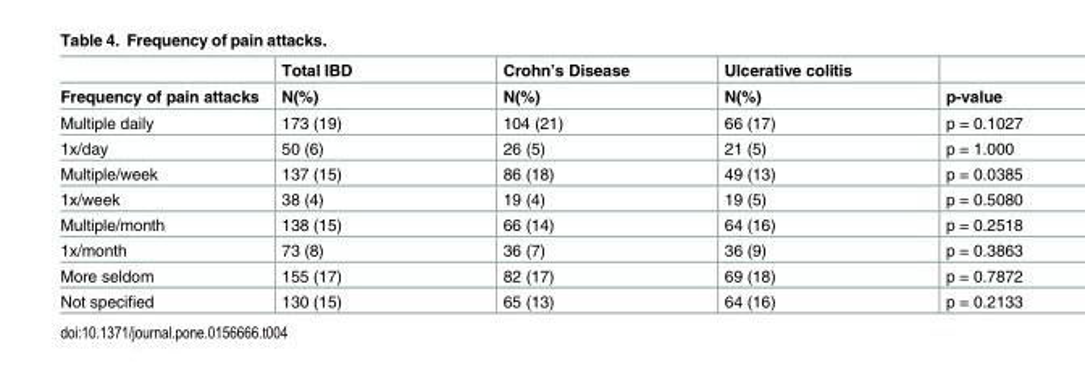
<table><thead><tr><td rowspan="2">Frequency of pain attacks</td><td rowspan="2">Total IBD N(%)</td><td rowspan="2">Crohn’s Disease N(%)</td><td rowspan="2">Ulcerative colitis N(%)</td><td rowspan="2">p-value</td></tr><tr></tr></thead><tbody><tr><td>Multiple daily</td><td>173 (19)</td><td>104 (21)</td><td>66 (17)</td><td>p = 0.1027</td></tr><tr><td>1x/day</td><td>50 (6)</td><td>26 (5)</td><td>21 (5)</td><td>p = 1.000</td></tr><tr><td>Multiple/week</td><td>137 (15)</td><td>86 (18)</td><td>49 (13)</td><td>p = 0.0385</td></tr><tr><td>1x/week</td><td>38 (4)</td><td>19 (4)</td><td>19 (5)</td><td>p = 0.5080</td></tr><tr><td>Multiple/month</td><td>138 (15)</td><td>66 (14)</td><td>64 (16)</td><td>p = 0.2518</td></tr><tr><td>1x/month</td><td>73 (8)</td><td>36 (7)</td><td>36 (9)</td><td>p = 0.3863</td></tr><tr><td>More seldom</td><td>155 (17)</td><td>82 (17)</td><td>69 (18)</td><td>p = 0.7872</td></tr><tr><td>Not specified</td><td>130 (15)</td><td>65 (13)</td><td>64 (16)</td><td>p = 0.2133</td></tr></tbody></table>